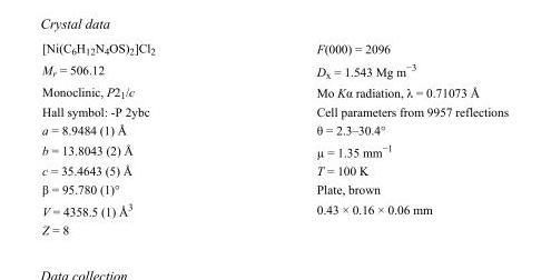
<table><tbody><tr><td>[Ni(C<sub>6</sub>H<sub>12</sub>N<sub>4</sub>OS)<sub>2</sub>]Cl<sub>2</sub></td><td>F(000) = 2096</td></tr><tr><td>M<sub>r</sub> = 506.12</td><td>D<sub>x</sub> = 1.543 Mg m<sup>−3</sup></td></tr><tr><td>Monoclinic, P2<sub>1</sub>/c</td><td>Mo Kα radiation, λ = 0.71073 Å</td></tr><tr><td>Hall symbol: -P 2ybc</td><td>Cell parameters from 9957 reflections</td></tr><tr><td>a = 8.9484 (1) Å</td><td>θ = 2.3–30.4°</td></tr><tr><td>b = 13.8043 (2) Å</td><td>µ = 1.35 mm<sup>−1</sup></td></tr><tr><td>c = 35.4643 (5) Å</td><td>T = 100 K</td></tr><tr><td>β = 95.780 (1)°</td><td>Plate, brown</td></tr><tr><td>V = 4358.5 (1) Å<sup>3</sup></td><td>0.43 × 0.16 × 0.06 mm</td></tr><tr><td>Z = 8</td><td></td></tr></tbody></table>